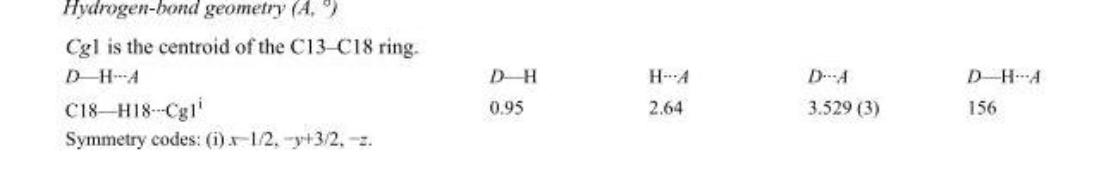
<table><tbody><tr><td>D—H···A</td><td>D—H</td><td>H···A</td><td>D···A</td><td>D—H···A</td></tr><tr><td>C18—H18···Cg1<sup>i</sup></td><td>0.95</td><td>2.64</td><td>3.529 (3)</td><td>156</td></tr></tbody></table>